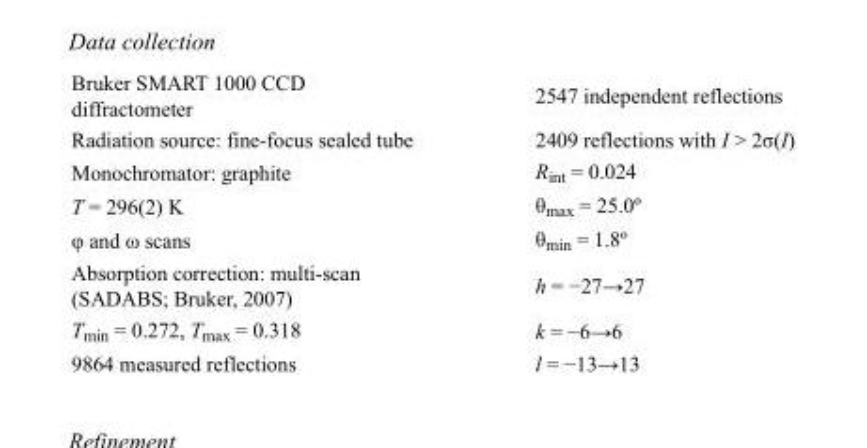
<table><tbody><tr><td>Bruker SMART 1000 CCD diffractometer</td><td>2547 independent reflections</td></tr><tr><td>Radiation source: fine-focus sealed tube</td><td>2409 reflections with I &gt; 2σ(I)</td></tr><tr><td>Monochromator: graphite</td><td>R<sub>int</sub> = 0.024</td></tr><tr><td>T = 296(2) K</td><td>θ<sub>max</sub> = 25.0º</td></tr><tr><td>φ and ω scans</td><td>θ<sub>min</sub> = 1.8º</td></tr><tr><td>Absorption correction: multi-scan (SADABS; Bruker, 2007)</td><td>h = −27→27</td></tr><tr><td>T<sub>min</sub> = 0.272, T<sub>max</sub> = 0.318</td><td>k = −6→6</td></tr><tr><td>9864 measured reflections</td><td>l = −13→13</td></tr></tbody></table>